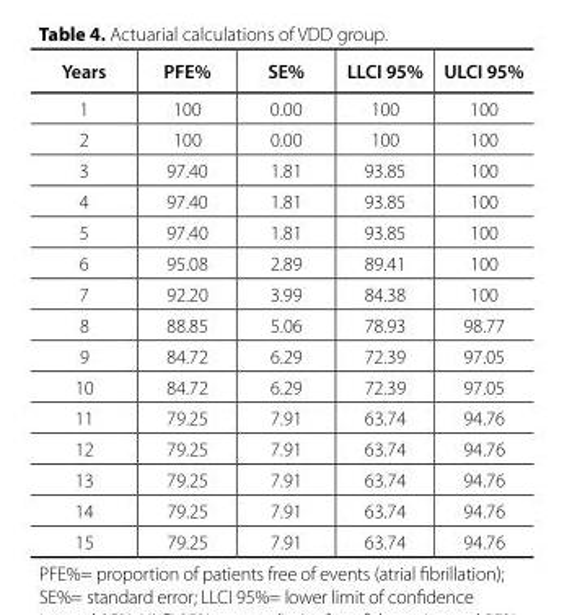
<table><thead><tr><td>Years</td><td>PFE%</td><td>SE%</td><td>LLCI 95%</td><td>ULCI 95%</td></tr></thead><tbody><tr><td>1</td><td>100</td><td>0.00</td><td>100</td><td>100</td></tr><tr><td>2</td><td>100</td><td>0.00</td><td>100</td><td>100</td></tr><tr><td>3</td><td>97.40</td><td>1.81</td><td>93.85</td><td>100</td></tr><tr><td>4</td><td>97.40</td><td>1.81</td><td>93.85</td><td>100</td></tr><tr><td>5</td><td>97.40</td><td>1.81</td><td>93.85</td><td>100</td></tr><tr><td>6</td><td>95.08</td><td>2.89</td><td>89.41</td><td>100</td></tr><tr><td>7</td><td>92.20</td><td>3.99</td><td>84.38</td><td>100</td></tr><tr><td>8</td><td>88.85</td><td>5.06</td><td>78.93</td><td>98.77</td></tr><tr><td>9</td><td>84.72</td><td>6.29</td><td>72.39</td><td>97.05</td></tr><tr><td>10</td><td>84.72</td><td>6.29</td><td>72.39</td><td>97.05</td></tr><tr><td>11</td><td>79.25</td><td>7.91</td><td>63.74</td><td>94.76</td></tr><tr><td>12</td><td>79.25</td><td>7.91</td><td>63.74</td><td>94.76</td></tr><tr><td>13</td><td>79.25</td><td>7.91</td><td>63.74</td><td>94.76</td></tr><tr><td>14</td><td>79.25</td><td>7.91</td><td>63.74</td><td>94.76</td></tr><tr><td>15</td><td>79.25</td><td>7.91</td><td>63.74</td><td>94.76</td></tr></tbody></table>